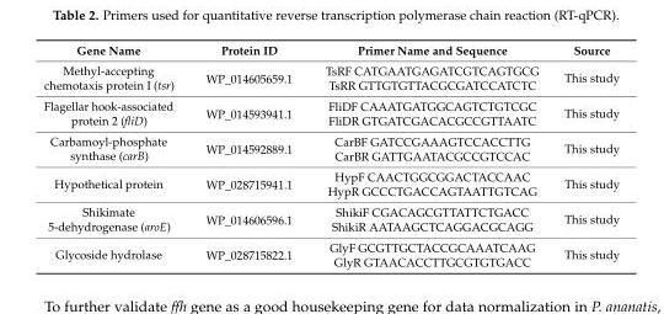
<table><thead><tr><td>Gene Name</td><td>Protein ID</td><td>Primer Name and Sequence</td><td>Source</td></tr></thead><tbody><tr><td rowspan="2">Methyl-accepting chemotaxis protein I (tsr)</td><td rowspan="2">WP_014605659.1</td><td>TsRF CATGAATGAGATCGTCAGTGCG</td><td rowspan="2">This study</td></tr><tr><td>TsRR GTTGTGTTACGCGATCCATCTC</td></tr><tr><td rowspan="2">Flagellar hook-associated protein 2 (fliD)</td><td rowspan="2">WP_014593941.1</td><td>FliDF CAAATGATGGCAGTCTGTCGC</td><td rowspan="2">This study</td></tr><tr><td>FliDR GTGATCGACACGCCGTTAATC</td></tr><tr><td rowspan="2">Carbamoyl-phosphate synthase (carB)</td><td rowspan="2">WP_014592889.1</td><td>CarBF GATCCGAAAGTCCACCTTG</td><td rowspan="2">This study</td></tr><tr><td>CarBR GATTGAATACGCCGTCCAC</td></tr><tr><td rowspan="2">Hypothetical protein</td><td rowspan="2">WP_028715941.1</td><td>HypF CAACTGGCGGACTACCAAC</td><td rowspan="2">This study</td></tr><tr><td>HypR GCCCTGACCAGTAATTGTCAG</td></tr><tr><td rowspan="2">Shikimate 5-dehydrogenase (aroE)</td><td rowspan="2">WP_014606596.1</td><td>ShikiF CGACAGCGTTATTCTGACC</td><td rowspan="2">This study</td></tr><tr><td>ShikiR AATAAGCTCAGGACGCAGG</td></tr><tr><td rowspan="2">Glycoside hydrolase</td><td rowspan="2">WP_028715822.1</td><td>GlyF GCGTTGCTACCGCAAATCAAG</td><td rowspan="2">This study</td></tr><tr><td>GlyR GTAACACCTTGCGTGTGACC</td></tr></tbody></table>